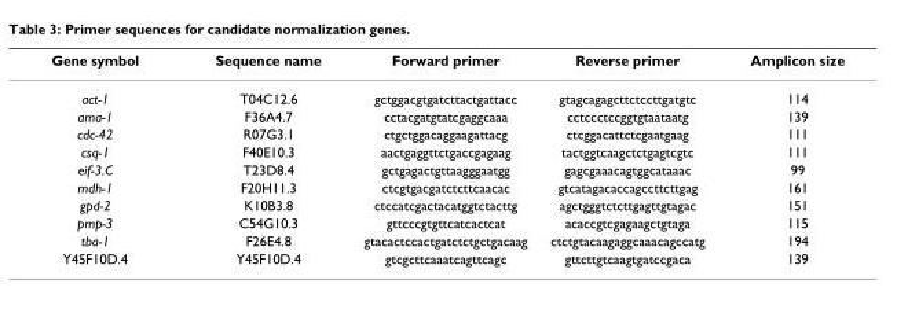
<table><thead><tr><td>Gene symbol</td><td>Sequence name</td><td>Forward primer</td><td>Reverse primer</td><td>Amplicon size</td></tr></thead><tbody><tr><td>act-1</td><td>T04C12.6</td><td>gctggacgtgatcttactgattacc</td><td>gtagcagagcttctccttgatgtc</td><td>114</td></tr><tr><td>ama-1</td><td>F36A4.7</td><td>cctacgatgtatcgaggcaaa</td><td>cctccctccggtgtaataatg</td><td>139</td></tr><tr><td>cdc-42</td><td>R07G3.1</td><td>ctgctggacaggaagattacg</td><td>ctcggacattctcgaatgaag</td><td>111</td></tr><tr><td>csq-1</td><td>F40E10.3</td><td>aactgaggttctgaccgagaag</td><td>tactggtcaagctctgagtcgtc</td><td>111</td></tr><tr><td>eif-3.C</td><td>T23D8.4</td><td>gctgagactgttaagggaatgg</td><td>gagcgaaacagtggcataaac</td><td>99</td></tr><tr><td>mdh-1</td><td>F20H11.3</td><td>ctcgtgacgatctcttcaacac</td><td>gtcatagacaccagccttcttgag</td><td>161</td></tr><tr><td>gpd-2</td><td>K10B3.8</td><td>ctccatcgactacatggtctacttg</td><td>agctgggtctcttgagttgtagac</td><td>151</td></tr><tr><td>pmp-3</td><td>C54G10.3</td><td>gttcccgtgttcatcactcat</td><td>acaccgtcgagaagctgtaga</td><td>115</td></tr><tr><td>tba-1</td><td>F26E4.8</td><td>gtacactccactgatctctgctgacaag</td><td>ctctgtacaagaggcaaacagccatg</td><td>194</td></tr><tr><td>Y45F10D.4</td><td>Y45F10D.4</td><td>gtcgcttcaaatcagttcagc</td><td>gttcttgtcaagtgatccgaca</td><td>139</td></tr></tbody></table>